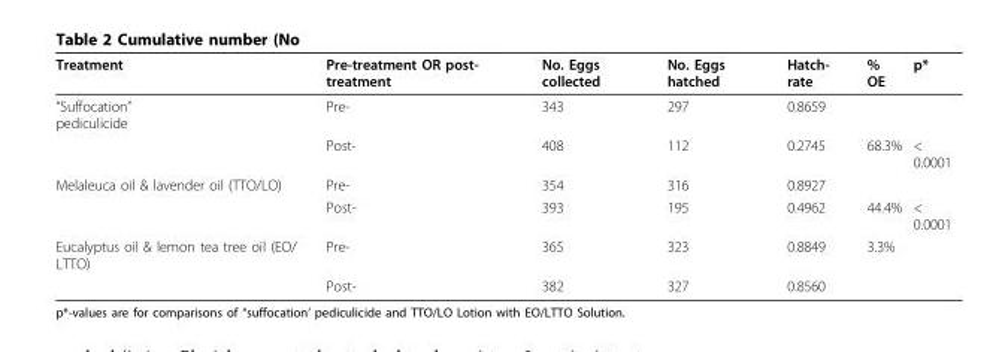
<table><thead><tr><td>Treatment</td><td>Pre-treatment OR post- treatment</td><td>No. Eggs collected</td><td>No. Eggs hatched</td><td>Hatch- rate</td><td>% OE</td><td>p*</td></tr></thead><tbody><tr><td rowspan="2">“Suffocation” pediculicide</td><td>Pre-</td><td>343</td><td>297</td><td>0.8659</td><td></td><td></td></tr><tr><td>Post-</td><td>408</td><td>112</td><td>0.2745</td><td>68.3%</td><td>&lt; 0.0001</td></tr><tr><td rowspan="2">Melaleuca oil &amp; lavender oil (TTO/LO)</td><td>Pre-</td><td>354</td><td>316</td><td>0.8927</td><td></td><td></td></tr><tr><td>Post-</td><td>393</td><td>195</td><td>0.4962</td><td>44.4%</td><td>&lt; 0.0001</td></tr><tr><td rowspan="2">Eucalyptus oil &amp; lemon tea tree oil (EO/ LTTO)</td><td>Pre-</td><td>365</td><td>323</td><td>0.8849</td><td>3.3%</td><td></td></tr><tr><td>Post-</td><td>382</td><td>327</td><td>0.8560</td><td></td><td></td></tr></tbody></table>